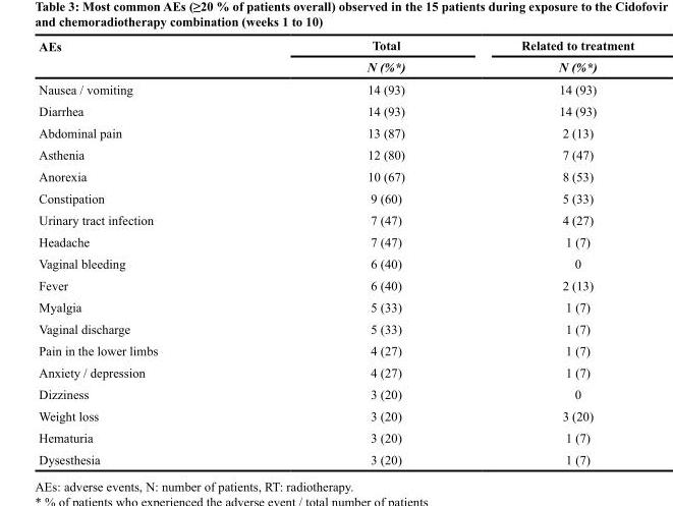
<table><thead><tr><td rowspan="2">AEs</td><td rowspan="2">Total N (%*)</td><td rowspan="2">Related to treatment N (%*)</td></tr><tr></tr></thead><tbody><tr><td>Nausea / vomiting</td><td>14 (93)</td><td>14 (93)</td></tr><tr><td>Diarrhea</td><td>14 (93)</td><td>14 (93)</td></tr><tr><td>Abdominal pain</td><td>13 (87)</td><td>2 (13)</td></tr><tr><td>Asthenia</td><td>12 (80)</td><td>7 (47)</td></tr><tr><td>Anorexia</td><td>10 (67)</td><td>8 (53)</td></tr><tr><td>Constipation</td><td>9 (60)</td><td>5 (33)</td></tr><tr><td>Urinary tract infection</td><td>7 (47)</td><td>4 (27)</td></tr><tr><td>Headache</td><td>7 (47)</td><td>1 (7)</td></tr><tr><td>Vaginal bleeding</td><td>6 (40)</td><td>0</td></tr><tr><td>Fever</td><td>6 (40)</td><td>2 (13)</td></tr><tr><td>Myalgia</td><td>5 (33)</td><td>1 (7)</td></tr><tr><td>Vaginal discharge</td><td>5 (33)</td><td>1 (7)</td></tr><tr><td>Pain in the lower limbs</td><td>4 (27)</td><td>1 (7)</td></tr><tr><td>Anxiety / depression</td><td>4 (27)</td><td>1 (7)</td></tr><tr><td>Dizziness</td><td>3 (20)</td><td>0</td></tr><tr><td>Weight loss</td><td>3 (20)</td><td>3 (20)</td></tr><tr><td>Hematuria</td><td>3 (20)</td><td>1 (7)</td></tr><tr><td>Dysesthesia</td><td>3 (20)</td><td>1 (7)</td></tr></tbody></table>